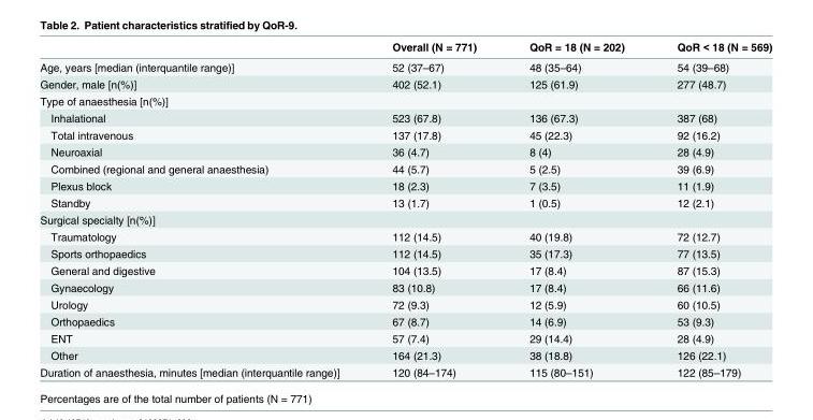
<table><thead><tr><td></td><td>Overall (N = 771)</td><td>QoR = 18 (N = 202)</td><td>QoR &lt; 18 (N = 569)</td></tr></thead><tbody><tr><td>Age, years [median (interquantile range)]</td><td>52 (37–67)</td><td>48 (35–64)</td><td>54 (39–68)</td></tr><tr><td>Gender, male [n(%)]</td><td>402 (52.1)</td><td>125 (61.9)</td><td>277 (48.7)</td></tr><tr><td colspan="4">Type of anaesthesia [n(%)]</td></tr><tr><td>Inhalational</td><td>523 (67.8)</td><td>136 (67.3)</td><td>387 (68)</td></tr><tr><td>Total intravenous</td><td>137 (17.8)</td><td>45 (22.3)</td><td>92 (16.2)</td></tr><tr><td>Neuroaxial</td><td>36 (4.7)</td><td>8 (4)</td><td>28 (4.9)</td></tr><tr><td>Combined (regional and general anaesthesia)</td><td>44 (5.7)</td><td>5 (2.5)</td><td>39 (6.9)</td></tr><tr><td>Plexus block</td><td>18 (2.3)</td><td>7 (3.5)</td><td>11 (1.9)</td></tr><tr><td>Standby</td><td>13 (1.7)</td><td>1 (0.5)</td><td>12 (2.1)</td></tr><tr><td colspan="4">Surgical specialty [n(%)]</td></tr><tr><td>Traumatology</td><td>112 (14.5)</td><td>40 (19.8)</td><td>72 (12.7)</td></tr><tr><td>Sports orthopaedics</td><td>112 (14.5)</td><td>35 (17.3)</td><td>77 (13.5)</td></tr><tr><td>General and digestive</td><td>104 (13.5)</td><td>17 (8.4)</td><td>87 (15.3)</td></tr><tr><td>Gynaecology</td><td>83 (10.8)</td><td>17 (8.4)</td><td>66 (11.6)</td></tr><tr><td>Urology</td><td>72 (9.3)</td><td>12 (5.9)</td><td>60 (10.5)</td></tr><tr><td>Orthopaedics</td><td>67 (8.7)</td><td>14 (6.9)</td><td>53 (9.3)</td></tr><tr><td>ENT</td><td>57 (7.4)</td><td>29 (14.4)</td><td>28 (4.9)</td></tr><tr><td>Other</td><td>164 (21.3)</td><td>38 (18.8)</td><td>126 (22.1)</td></tr><tr><td>Duration of anaesthesia, minutes [median (interquantile range)]</td><td>120 (84–174)</td><td>115 (80–151)</td><td>122 (85–179)</td></tr></tbody></table>